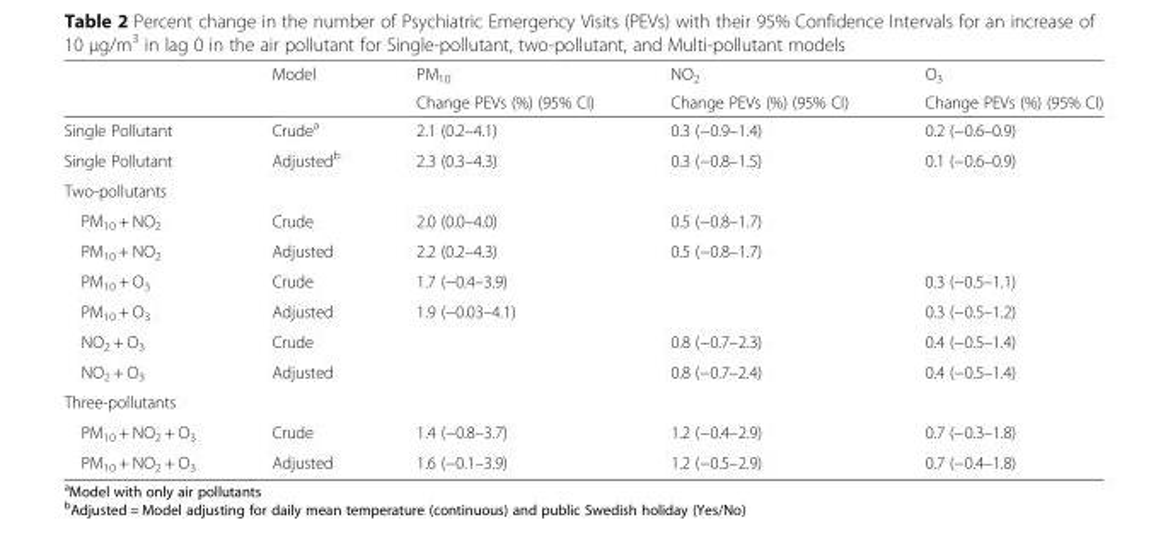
<table><thead><tr><td rowspan="2"></td><td rowspan="2">Model</td><td rowspan="2">PM<sub>10</sub> Change PEVs (%) (95% CI)</td><td rowspan="2">NO<sub>2</sub> Change PEVs (%) (95% CI)</td><td rowspan="2">O<sub>3</sub> Change PEVs (%) (95% CI)</td></tr><tr></tr></thead><tbody><tr><td>Single Pollutant</td><td>Crude<sup>a</sup></td><td>2.1 (0.2–4.1)</td><td>0.3 (−0.9–1.4)</td><td>0.2 (−0.6–0.9)</td></tr><tr><td>Single Pollutant</td><td>Adjusted<sup>b</sup></td><td>2.3 (0.3–4.3)</td><td>0.3 (−0.8–1.5)</td><td>0.1 (−0.6–0.9)</td></tr><tr><td colspan="5">Two-pollutants</td></tr><tr><td>PM<sub>10</sub> + NO<sub>2</sub></td><td>Crude</td><td>2.0 (0.0–4.0)</td><td>0.5 (−0.8–1.7)</td><td></td></tr><tr><td>PM<sub>10</sub> + NO<sub>2</sub></td><td>Adjusted</td><td>2.2 (0.2–4.3)</td><td>0.5 (−0.8–1.7)</td><td></td></tr><tr><td>PM<sub>10</sub> + O<sub>3</sub></td><td>Crude</td><td>1.7 (−0.4–3.9)</td><td></td><td>0.3 (−0.5–1.1)</td></tr><tr><td>PM<sub>10</sub> + O<sub>3</sub></td><td>Adjusted</td><td>1.9 (−0.03–4.1)</td><td></td><td>0.3 (−0.5–1.2)</td></tr><tr><td>NO<sub>2</sub> + O<sub>3</sub></td><td>Crude</td><td></td><td>0.8 (−0.7–2.3)</td><td>0.4 (−0.5–1.4)</td></tr><tr><td>NO<sub>2</sub> + O<sub>3</sub></td><td>Adjusted</td><td></td><td>0.8 (−0.7–2.4)</td><td>0.4 (−0.5–1.4)</td></tr><tr><td colspan="5">Three-pollutants</td></tr><tr><td>PM<sub>10</sub> + NO<sub>2</sub> + O<sub>3</sub></td><td>Crude</td><td>1.4 (−0.8–3.7)</td><td>1.2 (−0.4–2.9)</td><td>0.7 (−0.3–1.8)</td></tr><tr><td>PM<sub>10</sub> + NO<sub>2</sub> + O<sub>3</sub></td><td>Adjusted</td><td>1.6 (−0.1–3.9)</td><td>1.2 (−0.5–2.9)</td><td>0.7 (−0.4–1.8)</td></tr></tbody></table>